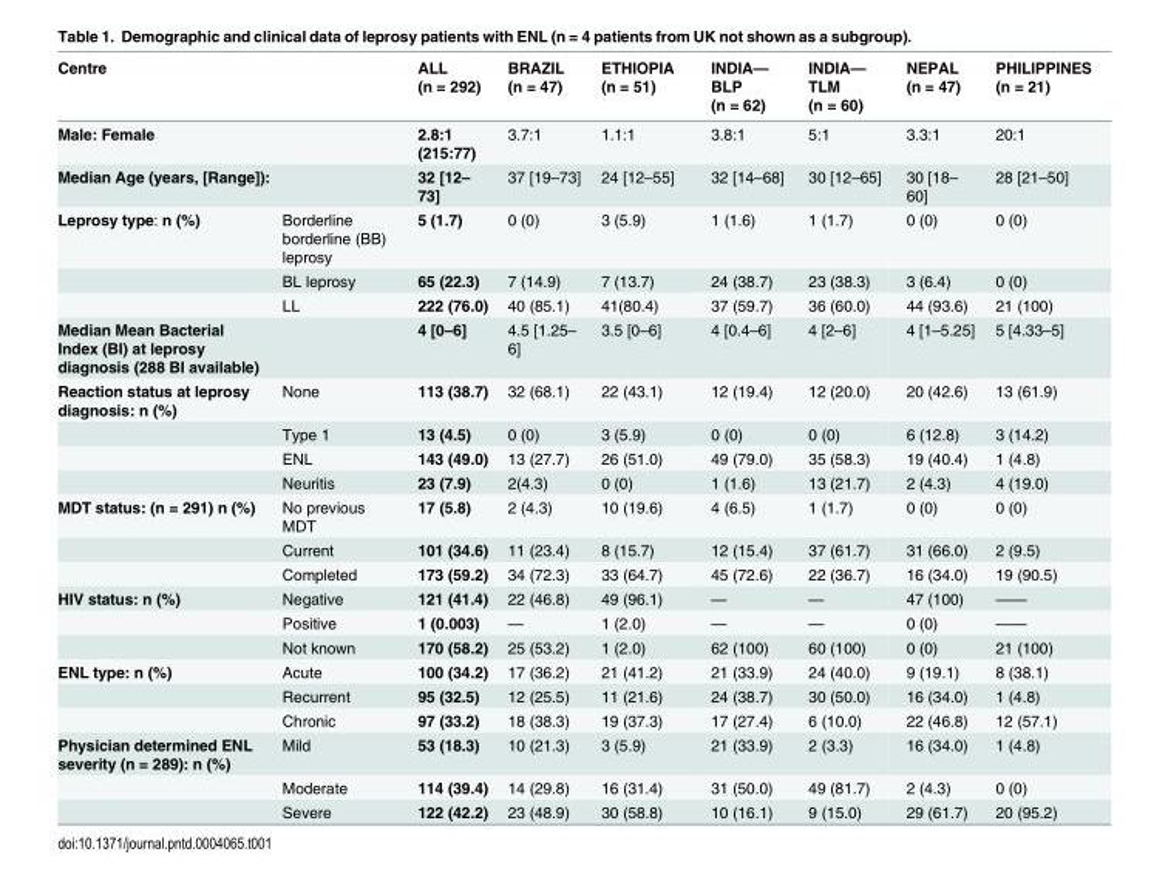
<table><thead><tr><td rowspan="3" colspan="2">Centre Male: Female Median Age (years, [Range]):</td><td rowspan="4">ALL (n = 292) 2.8:1 (215:77) 32 [12– 73] 5 (1.7)</td><td rowspan="4">BRAZIL (n = 47) 3.7:1 37 [19–73] 0 (0)</td><td rowspan="4">ETHIOPIA (n = 51) 1.1:1 24 [12–55] 3 (5.9)</td><td rowspan="4">INDIA— BLP (n = 62) 3.8:1 32 [14–68] 1 (1.6)</td><td rowspan="4">INDIA— TLM (n = 60) 5:1 30 [12–65] 1 (1.7)</td><td rowspan="4">NEPAL (n = 47) 3.3:1 30 [18– 60] 0 (0)</td><td rowspan="4">PHILIPPINES (n = 21) 20:1 28 [21–50] 0 (0)</td></tr><tr></tr><tr></tr><tr><td>Leprosy type: n (%)</td><td>Borderline borderline (BB) leprosy</td></tr></thead><tbody><tr><td></td><td>BL leprosy</td><td>65 (22.3)</td><td>7 (14.9)</td><td>7 (13.7)</td><td>24 (38.7)</td><td>23 (38.3)</td><td>3 (6.4)</td><td>0 (0)</td></tr><tr><td></td><td>LL</td><td>222 (76.0)</td><td>40 (85.1)</td><td>41(80.4)</td><td>37 (59.7)</td><td>36 (60.0)</td><td>44 (93.6)</td><td>21 (100)</td></tr><tr><td>Median Mean Bacterial Index (BI) at leprosy diagnosis (288 BI available)</td><td></td><td>4 [0–6]</td><td>4.5 [1.25– 6]</td><td>3.5 [0–6]</td><td>4 [0.4–6]</td><td>4 [2–6]</td><td>4 [1–5.25]</td><td>5 [4.33–5]</td></tr><tr><td rowspan="4">Reaction status at leprosy diagnosis: n (%)</td><td>None</td><td>113 (38.7)</td><td>32 (68.1)</td><td>22 (43.1)</td><td>12 (19.4)</td><td>12 (20.0)</td><td>20 (42.6)</td><td>13 (61.9)</td></tr><tr><td>Type 1</td><td>13 (4.5)</td><td>0 (0)</td><td>3 (5.9)</td><td>0 (0)</td><td>0 (0)</td><td>6 (12.8)</td><td>3 (14.2)</td></tr><tr><td>ENL</td><td>143 (49.0)</td><td>13 (27.7)</td><td>26 (51.0)</td><td>49 (79.0)</td><td>35 (58.3)</td><td>19 (40.4)</td><td>1 (4.8)</td></tr><tr><td>Neuritis</td><td>23 (7.9)</td><td>2(4.3)</td><td>0 (0)</td><td>1 (1.6)</td><td>13 (21.7)</td><td>2 (4.3)</td><td>4 (19.0)</td></tr><tr><td rowspan="3">MDT status: (n = 291) n (%)</td><td>No previous MDT</td><td>17 (5.8)</td><td>2 (4.3)</td><td>10 (19.6)</td><td>4 (6.5)</td><td>1 (1.7)</td><td>0 (0)</td><td>0 (0)</td></tr><tr><td>Current</td><td>101 (34.6)</td><td>11 (23.4)</td><td>8 (15.7)</td><td>12 (15.4)</td><td>37 (61.7)</td><td>31 (66.0)</td><td>2 (9.5)</td></tr><tr><td>Completed</td><td>173 (59.2)</td><td>34 (72.3)</td><td>33 (64.7)</td><td>45 (72.6)</td><td>22 (36.7)</td><td>16 (34.0)</td><td>19 (90.5)</td></tr><tr><td rowspan="3">HIV status: n (%)</td><td>Negative</td><td>121 (41.4)</td><td>22 (46.8)</td><td>49 (96.1)</td><td>—</td><td>—</td><td>47 (100)</td><td>——</td></tr><tr><td>Positive</td><td>1 (0.003)</td><td>—</td><td>1 (2.0)</td><td>—</td><td>—</td><td>0 (0)</td><td>——</td></tr><tr><td>Not known</td><td>170 (58.2)</td><td>25 (53.2)</td><td>1 (2.0)</td><td>62 (100)</td><td>60 (100)</td><td>0 (0)</td><td>21 (100)</td></tr><tr><td rowspan="3">ENL type: n (%)</td><td>Acute</td><td>100 (34.2)</td><td>17 (36.2)</td><td>21 (41.2)</td><td>21 (33.9)</td><td>24 (40.0)</td><td>9 (19.1)</td><td>8 (38.1)</td></tr><tr><td>Recurrent</td><td>95 (32.5)</td><td>12 (25.5)</td><td>11 (21.6)</td><td>24 (38.7)</td><td>30 (50.0)</td><td>16 (34.0)</td><td>1 (4.8)</td></tr><tr><td>Chronic</td><td>97 (33.2)</td><td>18 (38.3)</td><td>19 (37.3)</td><td>17 (27.4)</td><td>6 (10.0)</td><td>22 (46.8)</td><td>12 (57.1)</td></tr><tr><td rowspan="3">Physician determined ENL severity (n = 289): n (%)</td><td>Mild</td><td>53 (18.3)</td><td>10 (21.3)</td><td>3 (5.9)</td><td>21 (33.9)</td><td>2 (3.3)</td><td>16 (34.0)</td><td>1 (4.8)</td></tr><tr><td>Moderate</td><td>114 (39.4)</td><td>14 (29.8)</td><td>16 (31.4)</td><td>31 (50.0)</td><td>49 (81.7)</td><td>2 (4.3)</td><td>0 (0)</td></tr><tr><td>Severe</td><td>122 (42.2)</td><td>23 (48.9)</td><td>30 (58.8)</td><td>10 (16.1)</td><td>9 (15.0)</td><td>29 (61.7)</td><td>20 (95.2)</td></tr></tbody></table>